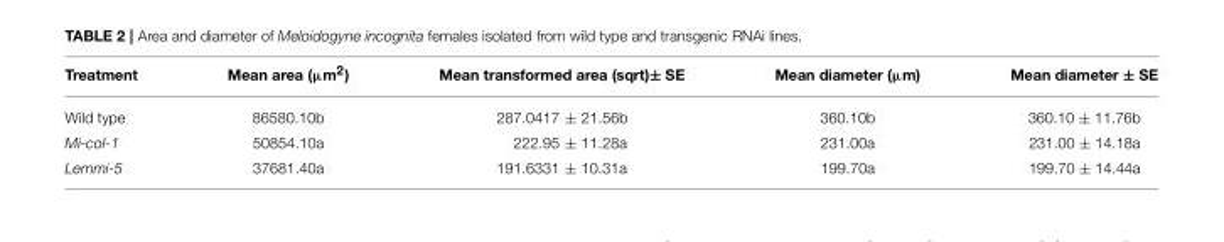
<table><thead><tr><td>Treatment</td><td>Mean area (µm<sup>2</sup>)</td><td>Mean transformed area (sqrt)± SE</td><td>Mean diameter (µm)</td><td>Mean diameter ± SE</td></tr></thead><tbody><tr><td>Wild type</td><td>86580.10b</td><td>287.0417 ± 21.56b</td><td>360.10b</td><td>360.10 ± 11.76b</td></tr><tr><td>Mi-col-1</td><td>50854.10a</td><td>222.95 ± 11.28a</td><td>231.00a</td><td>231.00 ± 14.18a</td></tr><tr><td>Lemmi-5</td><td>37681.40a</td><td>191.6331 ± 10.31a</td><td>199.70a</td><td>199.70 ± 14.44a</td></tr></tbody></table>